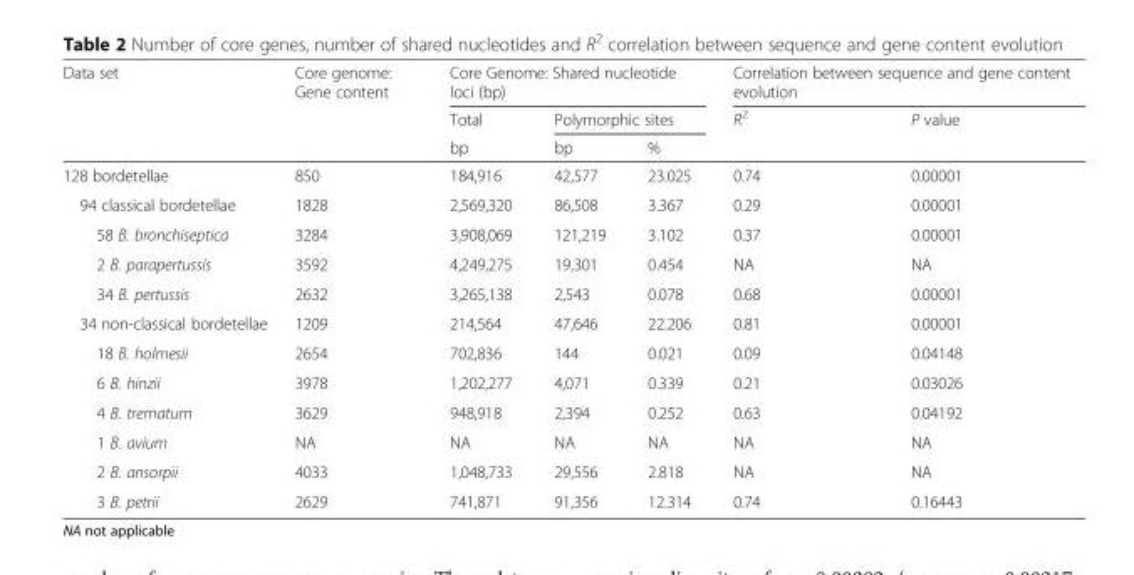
<table><thead><tr><td rowspan="3">Data set</td><td rowspan="3">Core genome: Gene content</td><td colspan="3">Core Genome: Shared nucleotide loci (bp)</td><td colspan="2">Correlation between sequence and gene content evolution</td></tr><tr><td rowspan="2">Total bp</td><td colspan="2">Polymorphic sites</td><td rowspan="2">R<sup>2</sup></td><td rowspan="2">P value</td></tr><tr><td>bp</td><td>%</td></tr></thead><tbody><tr><td>128 bordetellae</td><td>850</td><td>184,916</td><td>42,577</td><td>23.025</td><td>0.74</td><td>0.00001</td></tr><tr><td>94 classical bordetellae</td><td>1828</td><td>2,569,320</td><td>86,508</td><td>3.367</td><td>0.29</td><td>0.00001</td></tr><tr><td>58 B. bronchiseptica</td><td>3284</td><td>3,908,069</td><td>121,219</td><td>3.102</td><td>0.37</td><td>0.00001</td></tr><tr><td>2 B. parapertussis</td><td>3592</td><td>4,249,275</td><td>19,301</td><td>0.454</td><td>NA</td><td>NA</td></tr><tr><td>34 B. pertussis</td><td>2632</td><td>3,265,138</td><td>2,543</td><td>0.078</td><td>0.68</td><td>0.00001</td></tr><tr><td>34 non-classical bordetellae</td><td>1209</td><td>214,564</td><td>47,646</td><td>22.206</td><td>0.81</td><td>0.00001</td></tr><tr><td>18 B. holmesii</td><td>2654</td><td>702,836</td><td>144</td><td>0.021</td><td>0.09</td><td>0.04148</td></tr><tr><td>6 B. hinzii</td><td>3978</td><td>1,202,277</td><td>4,071</td><td>0.339</td><td>0.21</td><td>0.03026</td></tr><tr><td>4 B. trematum</td><td>3629</td><td>948,918</td><td>2,394</td><td>0.252</td><td>0.63</td><td>0.04192</td></tr><tr><td>1 B. avium</td><td>NA</td><td>NA</td><td>NA</td><td>NA</td><td>NA</td><td>NA</td></tr><tr><td>2 B. ansorpii</td><td>4033</td><td>1,048,733</td><td>29,556</td><td>2.818</td><td>NA</td><td>NA</td></tr><tr><td>3 B. petrii</td><td>2629</td><td>741,871</td><td>91,356</td><td>12.314</td><td>0.74</td><td>0.16443</td></tr></tbody></table>